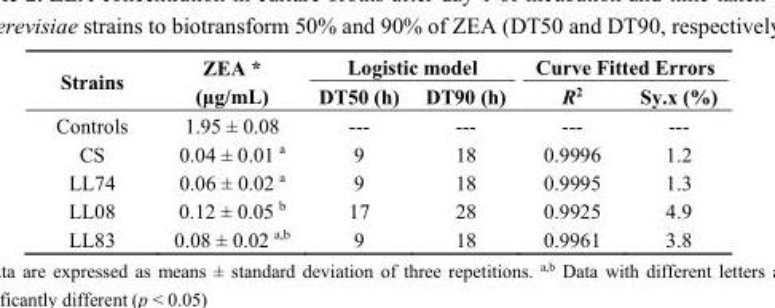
<table><thead><tr><td rowspan="2">Strains</td><td rowspan="2">ZEA * (μg/mL)</td><td colspan="2">Logistic model</td><td colspan="2">Curve Fitted Errors</td></tr><tr><td>DT50 (h)</td><td>DT90 (h)</td><td>R<sup>2</sup></td><td>Sy.x (%)</td></tr></thead><tbody><tr><td>Controls</td><td>1.95 ± 0.08</td><td>---</td><td>---</td><td>---</td><td>---</td></tr><tr><td>CS</td><td>0.04 ± 0.01 <sup>a</sup></td><td>9</td><td>18</td><td>0.9996</td><td>1.2</td></tr><tr><td>LL74</td><td>0.06 ± 0.02 <sup>a</sup></td><td>9</td><td>18</td><td>0.9995</td><td>1.3</td></tr><tr><td>LL08</td><td>0.12 ± 0.05 <sup>b</sup></td><td>17</td><td>28</td><td>0.9925</td><td>4.9</td></tr><tr><td>LL83</td><td>0.08 ± 0.02 <sup>a,b</sup></td><td>9</td><td>18</td><td>0.9961</td><td>3.8</td></tr></tbody></table>